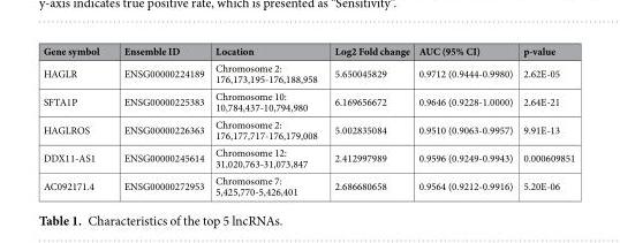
<table><thead><tr><td>Gene symbol</td><td>Ensemble ID</td><td>Location</td><td>Log2 Fold change</td><td>AUC (95% CI)</td><td>p-value</td></tr></thead><tbody><tr><td>HAGLR</td><td>ENSG00000224189</td><td>Chromosome 2: 176,173,195-176,188,958</td><td>5.650045829</td><td>0.9712 (0.9444-0.9980)</td><td>2.62E-05</td></tr><tr><td>SFTA1P</td><td>ENSG00000225383</td><td>Chromosome 10: 10,784,437-10,794,980</td><td>6.169656672</td><td>0.9646 (0.9228-1.0000)</td><td>2.64E-21</td></tr><tr><td>HAGLROS</td><td>ENSG00000226363</td><td>Chromosome 2: 176,177,717-176,179,008</td><td>5.002835084</td><td>0.9510 (0.9063-0.9957)</td><td>9.91E-13</td></tr><tr><td>DDX11-AS1</td><td>ENSG00000245614</td><td>Chromosome 12: 31,020,763-31,073,847</td><td>2.412997989</td><td>0.9596 (0.9249-0.9943)</td><td>0.000609851</td></tr><tr><td>AC092171.4</td><td>ENSG00000272953</td><td>Chromosome 7: 5,425,770-5,426,401</td><td>2.686680658</td><td>0.9564 (0.9212-0.9916)</td><td>5.20E-06</td></tr></tbody></table>